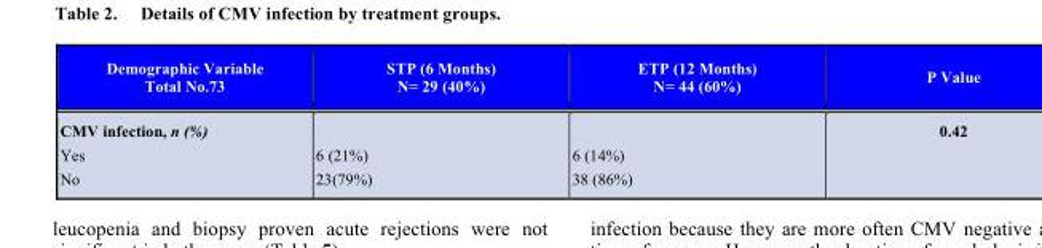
<table><thead><tr><td>Demographic Variable Total No.73</td><td>STP (6 Months) N= 29 (40%)</td><td>ETP (12 Months) N= 44 (60%)</td><td>P Value</td></tr></thead><tbody><tr><td>CMV infection, n (%) Yes No</td><td>6 (21%) 23(79%)</td><td>6 (14%) 38 (86%)</td><td>0.42</td></tr></tbody></table>